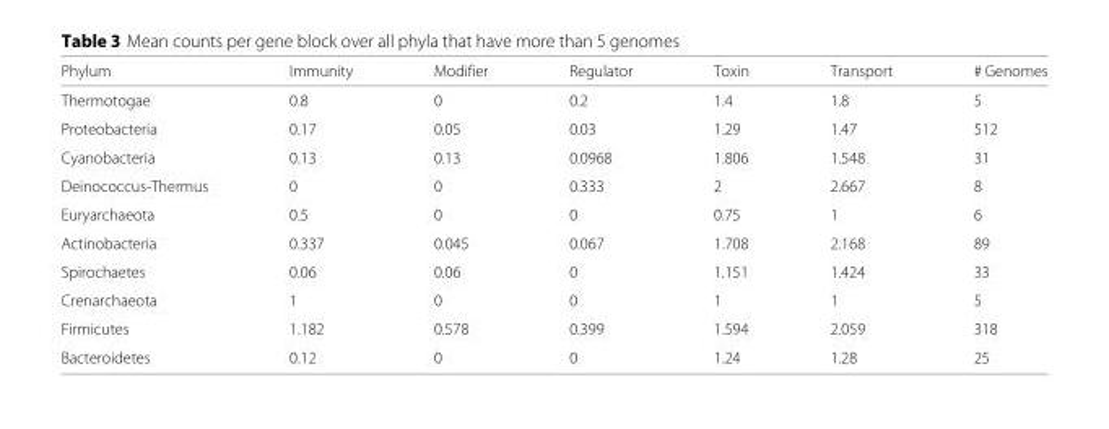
<table><thead><tr><td>Phylum</td><td>Immunity</td><td>Modifier</td><td>Regulator</td><td>Toxin</td><td>Transport</td><td># Genomes</td></tr></thead><tbody><tr><td>Thermotogae</td><td>0.8</td><td>0</td><td>0.2</td><td>1.4</td><td>1.8</td><td>5</td></tr><tr><td>Proteobacteria</td><td>0.17</td><td>0.05</td><td>0.03</td><td>1.29</td><td>1.47</td><td>512</td></tr><tr><td>Cyanobacteria</td><td>0.13</td><td>0.13</td><td>0.0968</td><td>1.806</td><td>1.548</td><td>31</td></tr><tr><td>Deinococcus-Thermus</td><td>0</td><td>0</td><td>0.333</td><td>2</td><td>2.667</td><td>8</td></tr><tr><td>Euryarchaeota</td><td>0.5</td><td>0</td><td>0</td><td>0.75</td><td>1</td><td>6</td></tr><tr><td>Actinobacteria</td><td>0.337</td><td>0.045</td><td>0.067</td><td>1.708</td><td>2.168</td><td>89</td></tr><tr><td>Spirochaetes</td><td>0.06</td><td>0.06</td><td>0</td><td>1.151</td><td>1.424</td><td>33</td></tr><tr><td>Crenarchaeota</td><td>1</td><td>0</td><td>0</td><td>1</td><td>1</td><td>5</td></tr><tr><td>Firmicutes</td><td>1.182</td><td>0.578</td><td>0.399</td><td>1.594</td><td>2.059</td><td>318</td></tr><tr><td>Bacteroidetes</td><td>0.12</td><td>0</td><td>0</td><td>1.24</td><td>1.28</td><td>25</td></tr></tbody></table>